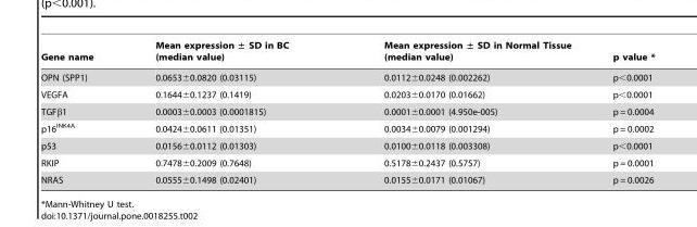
<table><thead><tr><td>Gene name</td><td>Mean expression ± SD in BC (median value)</td><td>Mean expression ± SD in Normal Tissue (median value)</td><td>p value *</td></tr></thead><tbody><tr><td>OPN (SPP1)</td><td>0.0653±0.0820 (0.03115)</td><td>0.0112±0.0248 (0.002262)</td><td>p&lt;0.0001</td></tr><tr><td>VEGFA</td><td>0.1644±0.1237 (0.1419)</td><td>0.0203±0.0170 (0.01662)</td><td>p&lt;0.0001</td></tr><tr><td>TGFβ1</td><td>0.0003±0.0003 (0.0001815)</td><td>0.0001±0.0001 (4.950e-005)</td><td>p = 0.0004</td></tr><tr><td>p16<sup>INK4A</sup></td><td>0.0424±0.0611 (0.01351)</td><td>0.0034±0.0079 (0.001294)</td><td>p = 0.0002</td></tr><tr><td>p53</td><td>0.0156±0.0112 (0.01303)</td><td>0.0100±0.0118 (0.003308)</td><td>p&lt;0.0001</td></tr><tr><td>RKIP</td><td>0.7478±0.2009 (0.7648)</td><td>0.5178±0.2437 (0.5757)</td><td>p = 0.0001</td></tr><tr><td>NRAS</td><td>0.0555±0.1498 (0.02401)</td><td>0.0155±0.0171 (0.01067)</td><td>p = 0.0026</td></tr></tbody></table>